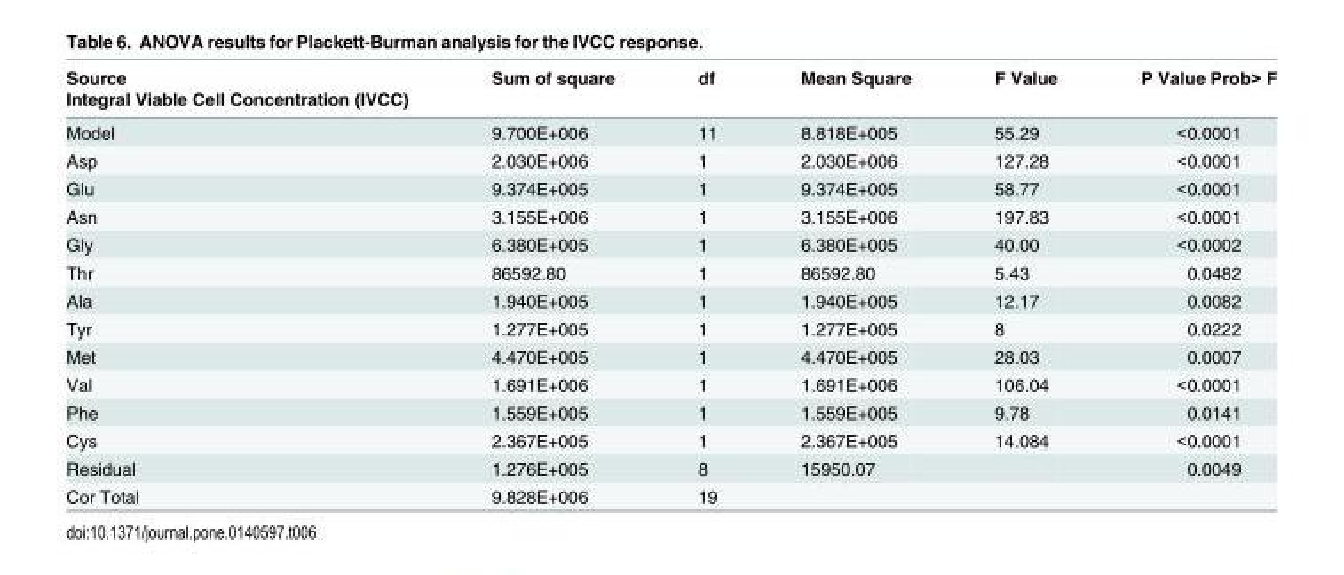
<table><thead><tr><td rowspan="2">Source Integral Viable Cell Concentration (IVCC)</td><td rowspan="2">Sum of square</td><td rowspan="2">df</td><td rowspan="2">Mean Square</td><td rowspan="2">F Value</td><td rowspan="2">P Value Prob&gt; F</td></tr><tr></tr></thead><tbody><tr><td>Model</td><td>9.700E+006</td><td>11</td><td>8.818E+005</td><td>55.29</td><td>&lt;0.0001</td></tr><tr><td>Asp</td><td>2.030E+006</td><td>1</td><td>2.030E+006</td><td>127.28</td><td>&lt;0.0001</td></tr><tr><td>Glu</td><td>9.374E+005</td><td>1</td><td>9.374E+005</td><td>58.77</td><td>&lt;0.0001</td></tr><tr><td>Asn</td><td>3.155E+006</td><td>1</td><td>3.155E+006</td><td>197.83</td><td>&lt;0.0001</td></tr><tr><td>Gly</td><td>6.380E+005</td><td>1</td><td>6.380E+005</td><td>40.00</td><td>&lt;0.0002</td></tr><tr><td>Thr</td><td>86592.80</td><td>1</td><td>86592.80</td><td>5.43</td><td>0.0482</td></tr><tr><td>Ala</td><td>1.940E+005</td><td>1</td><td>1.940E+005</td><td>12.17</td><td>0.0082</td></tr><tr><td>Tyr</td><td>1.277E+005</td><td>1</td><td>1.277E+005</td><td>8</td><td>0.0222</td></tr><tr><td>Met</td><td>4.470E+005</td><td>1</td><td>4.470E+005</td><td>28.03</td><td>0.0007</td></tr><tr><td>Val</td><td>1.691E+006</td><td>1</td><td>1.691E+006</td><td>106.04</td><td>&lt;0.0001</td></tr><tr><td>Phe</td><td>1.559E+005</td><td>1</td><td>1.559E+005</td><td>9.78</td><td>0.0141</td></tr><tr><td>Cys</td><td>2.367E+005</td><td>1</td><td>2.367E+005</td><td>14.084</td><td>&lt;0.0001</td></tr><tr><td>Residual</td><td>1.276E+005</td><td>8</td><td>15950.07</td><td></td><td>0.0049</td></tr><tr><td>Cor Total</td><td>9.828E+006</td><td>19</td><td></td><td></td><td></td></tr></tbody></table>